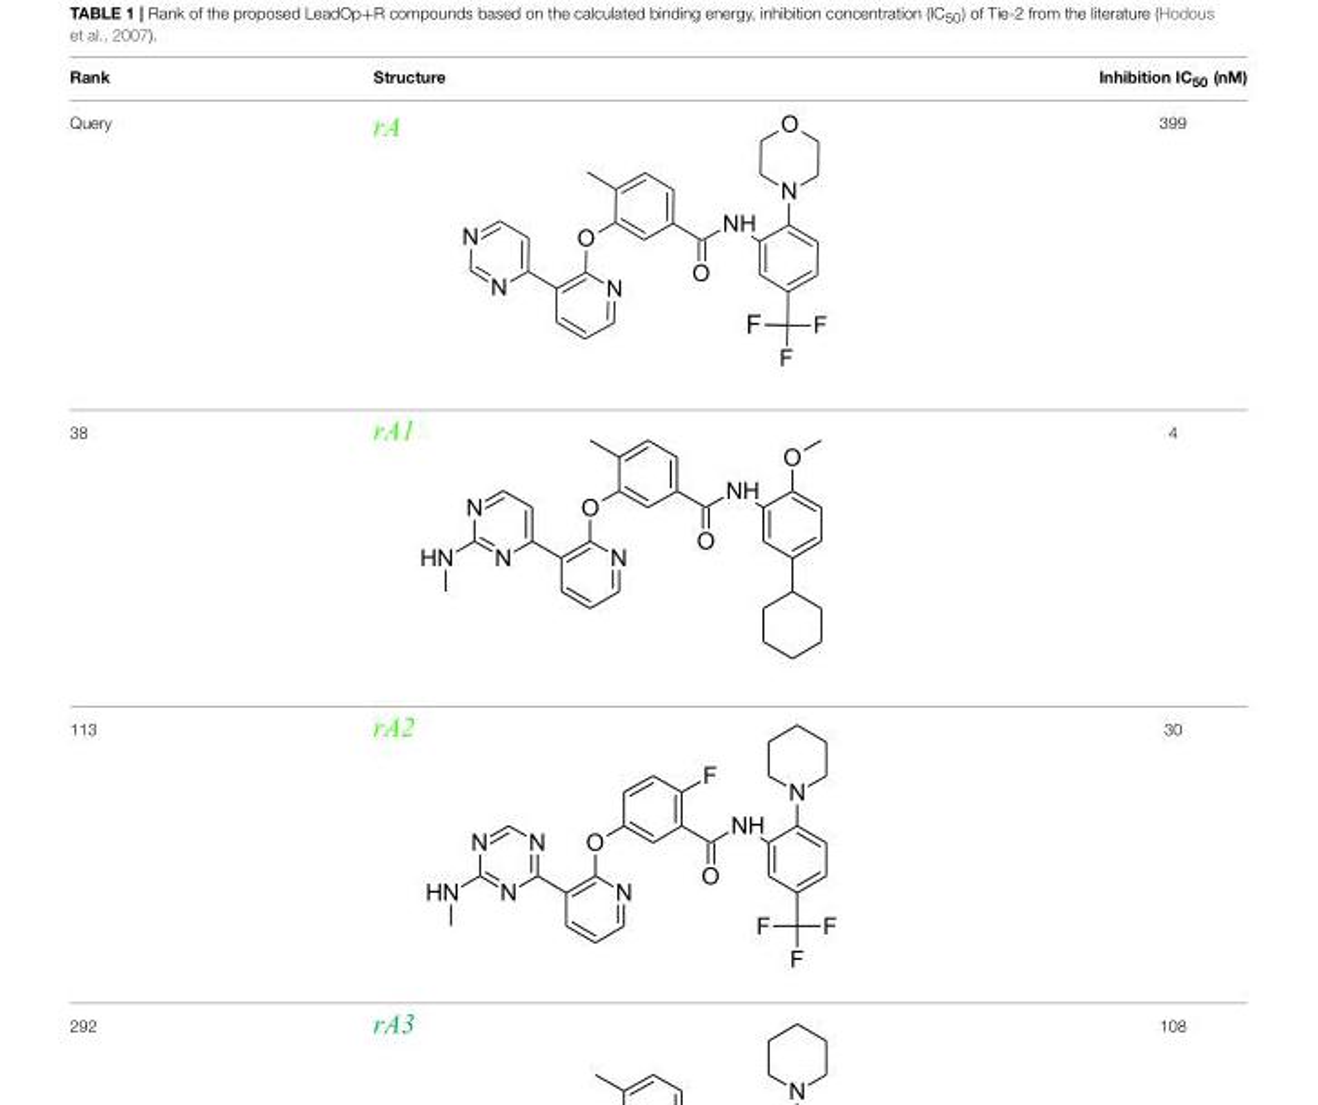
<table><thead><tr><td>Rank</td><td>Structure</td><td>Inhibition IC<sub>50</sub> (nM)</td></tr></thead><tbody><tr><td>Query</td><td></td><td>399</td></tr><tr><td>38</td><td></td><td>4</td></tr><tr><td>113</td><td></td><td>30</td></tr><tr><td>292</td><td></td><td>108</td></tr></tbody></table>